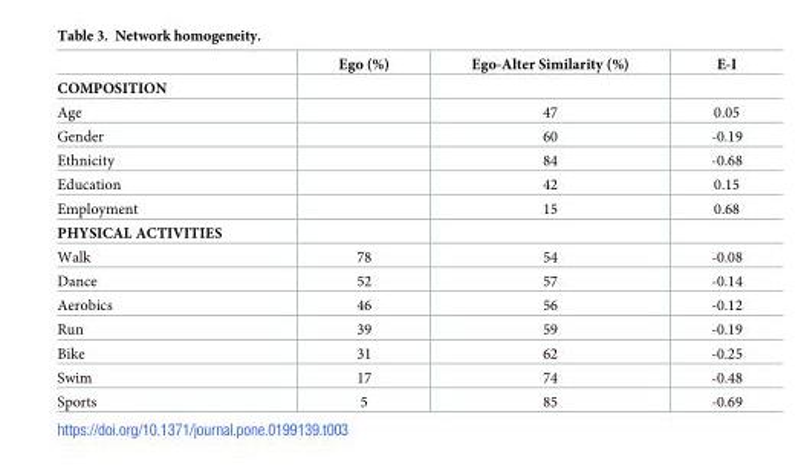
<table><thead><tr><td></td><td>Ego (%)</td><td>Ego-Alter Similarity (%)</td><td>E-I</td></tr></thead><tbody><tr><td colspan="4">COMPOSITION</td></tr><tr><td>Age</td><td></td><td>47</td><td>0.05</td></tr><tr><td>Gender</td><td></td><td>60</td><td>-0.19</td></tr><tr><td>Ethnicity</td><td></td><td>84</td><td>-0.68</td></tr><tr><td>Education</td><td></td><td>42</td><td>0.15</td></tr><tr><td>Employment</td><td></td><td>15</td><td>0.68</td></tr><tr><td colspan="4">PHYSICAL ACTIVITIES</td></tr><tr><td>Walk</td><td>78</td><td>54</td><td>-0.08</td></tr><tr><td>Dance</td><td>52</td><td>57</td><td>-0.14</td></tr><tr><td>Aerobics</td><td>46</td><td>56</td><td>-0.12</td></tr><tr><td>Run</td><td>39</td><td>59</td><td>-0.19</td></tr><tr><td>Bike</td><td>31</td><td>62</td><td>-0.25</td></tr><tr><td>Swim</td><td>17</td><td>74</td><td>-0.48</td></tr><tr><td>Sports</td><td>5</td><td>85</td><td>-0.69</td></tr></tbody></table>